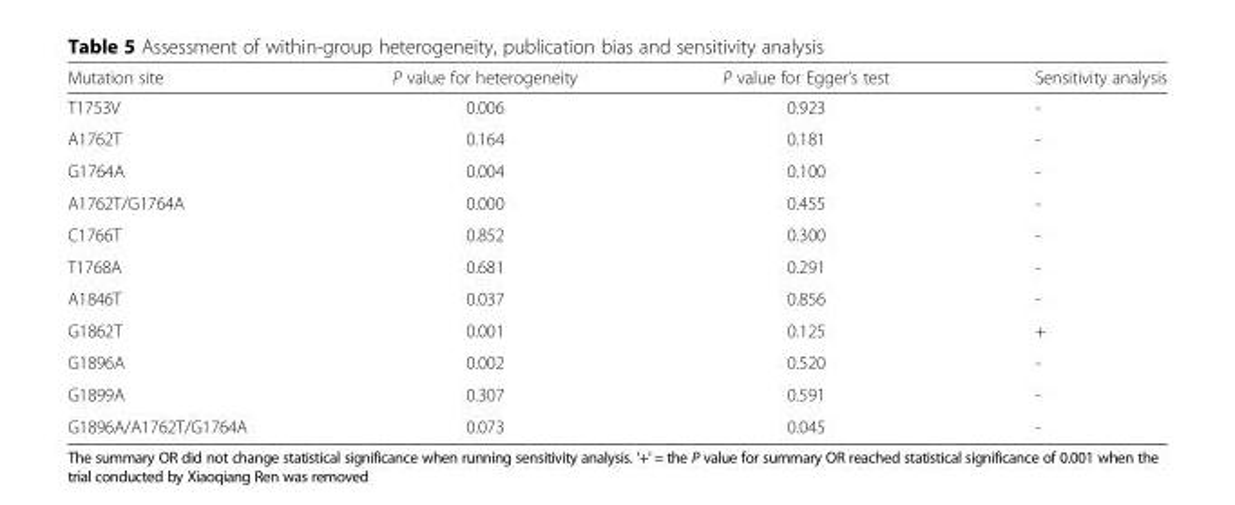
<table><thead><tr><td>Mutation site</td><td>P value for heterogeneity</td><td>P value for Egger’s test</td><td>Sensitivity analysis</td></tr></thead><tbody><tr><td>T1753V</td><td>0.006</td><td>0.923</td><td>-</td></tr><tr><td>A1762T</td><td>0.164</td><td>0.181</td><td>-</td></tr><tr><td>G1764A</td><td>0.004</td><td>0.100</td><td>-</td></tr><tr><td>A1762T/G1764A</td><td>0.000</td><td>0.455</td><td>-</td></tr><tr><td>C1766T</td><td>0.852</td><td>0.300</td><td>-</td></tr><tr><td>T1768A</td><td>0.681</td><td>0.291</td><td>-</td></tr><tr><td>A1846T</td><td>0.037</td><td>0.856</td><td>-</td></tr><tr><td>G1862T</td><td>0.001</td><td>0.125</td><td>+</td></tr><tr><td>G1896A</td><td>0.002</td><td>0.520</td><td>-</td></tr><tr><td>G1899A</td><td>0.307</td><td>0.591</td><td>-</td></tr><tr><td>G1896A/A1762T/G1764A</td><td>0.073</td><td>0.045</td><td>-</td></tr></tbody></table>